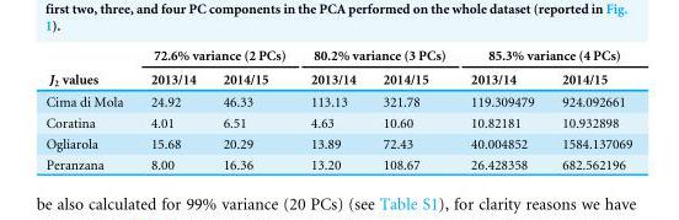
<table><thead><tr><td rowspan="2">J<sub>2</sub> values</td><td colspan="2">72.6% variance (2 PCs)</td><td colspan="2">80.2% variance (3 PCs)</td><td colspan="2">85.3% variance (4 PCs)</td></tr><tr><td>2013/14</td><td>2014/15</td><td>2013/14</td><td>2014/15</td><td>2013/14</td><td>2014/15</td></tr></thead><tbody><tr><td>Cima di Mola</td><td>24.92</td><td>46.33</td><td>113.13</td><td>321.78</td><td>119.309479</td><td>924.092661</td></tr><tr><td>Coratina</td><td>4.01</td><td>6.51</td><td>4.63</td><td>10.60</td><td>10.82181</td><td>10.932898</td></tr><tr><td>Ogliarola</td><td>15.68</td><td>20.29</td><td>13.89</td><td>72.43</td><td>40.004852</td><td>1584.137069</td></tr><tr><td>Peranzana</td><td>8.00</td><td>16.36</td><td>13.20</td><td>108.67</td><td>26.428358</td><td>682.562196</td></tr></tbody></table>